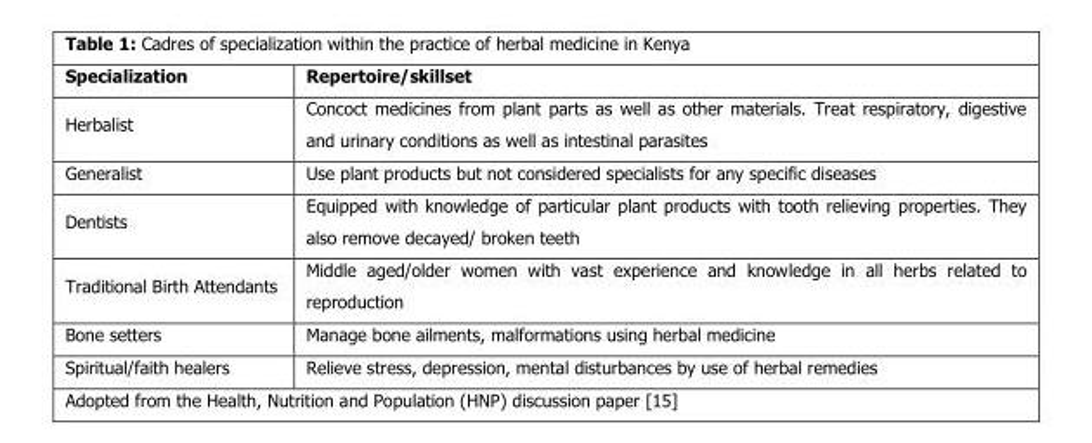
<table><thead><tr><td>Specialization</td><td>Repertoire/skillset</td></tr></thead><tbody><tr><td>Herbalist</td><td>Concoct medicines from plant parts as well as other materials. Treat respiratory, digestive and urinary conditions as well as intestinal parasites</td></tr><tr><td>Generalist</td><td>Use plant products but not considered specialists for any specific diseases</td></tr><tr><td>Dentists</td><td>Equipped with knowledge of particular plant products with tooth relieving properties. They also remove decayed/ broken teeth</td></tr><tr><td>Traditional Birth Attendants</td><td>Middle aged/older women with vast experience and knowledge in all herbs related to reproduction</td></tr><tr><td>Bone setters</td><td>Manage bone ailments, malformations using herbal medicine</td></tr><tr><td>Spiritual/faith healers</td><td>Relieve stress, depression, mental disturbances by use of herbal remedies</td></tr></tbody></table>